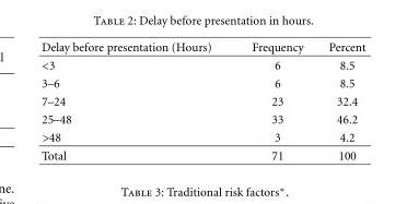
<table><thead><tr><td>Delay before presentation (Hours)</td><td>Frequency</td><td>Percent</td></tr></thead><tbody><tr><td>&lt;3</td><td>6</td><td>8.5</td></tr><tr><td>3–6</td><td>6</td><td>8.5</td></tr><tr><td>7–24</td><td>23</td><td>32.4</td></tr><tr><td>25–48</td><td>33</td><td>46.2</td></tr><tr><td>&gt;48</td><td>3</td><td>4.2</td></tr><tr><td>Total</td><td>71</td><td>100</td></tr></tbody></table>